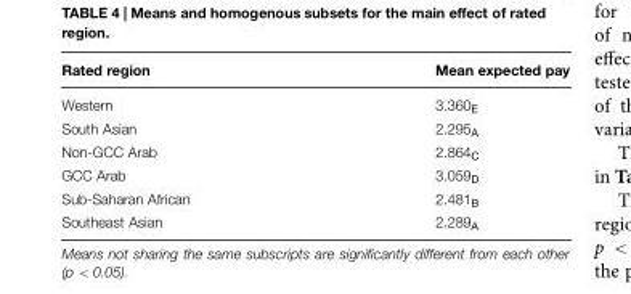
<table><thead><tr><td>Rated region</td><td>Mean expected pay</td></tr></thead><tbody><tr><td>Western</td><td>3.360<sub>E</sub></td></tr><tr><td>South Asian</td><td>2.295<sub>A</sub></td></tr><tr><td>Non-GCC Arab</td><td>2.864<sub>C</sub></td></tr><tr><td>GCC Arab</td><td>3.059<sub>D</sub></td></tr><tr><td>Sub-Saharan African</td><td>2.481<sub>B</sub></td></tr><tr><td>Southeast Asian</td><td>2.289<sub>A</sub></td></tr></tbody></table>